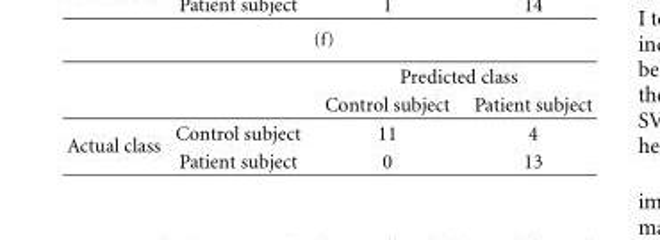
<table><thead><tr><td rowspan="2"></td><td rowspan="2"></td><td colspan="2">Predicted class</td></tr><tr><td>Control subject</td><td>Patient subject</td></tr></thead><tbody><tr><td rowspan="2">Actual class</td><td>Control subject</td><td>11</td><td>4</td></tr><tr><td>Patient subject</td><td>0</td><td>13</td></tr></tbody></table>